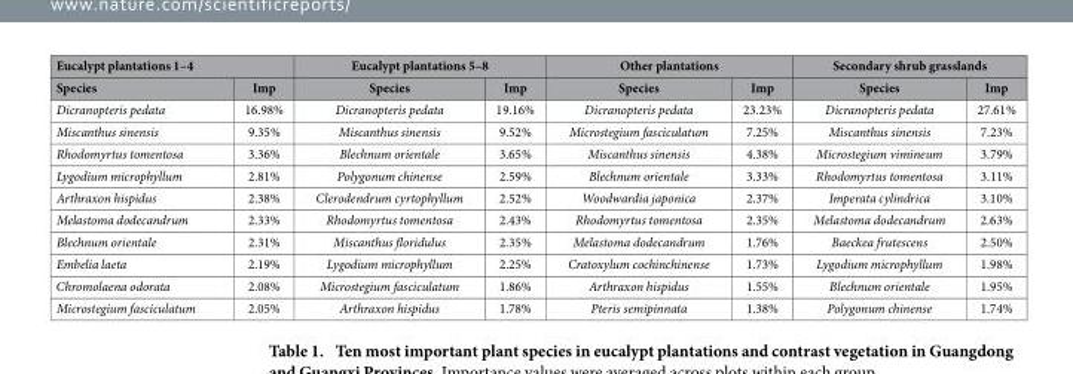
<table><thead><tr><td colspan="2">Eucalypt plantations 1–4</td><td colspan="2">Eucalypt plantations 5–8</td><td colspan="2">Other plantations</td><td colspan="2">Secondary shrub grasslands</td></tr><tr><td>Species</td><td>Imp</td><td>Species</td><td>Imp</td><td>Species</td><td>Imp</td><td>Species</td><td>Imp</td></tr></thead><tbody><tr><td>Dicranopteris pedata</td><td>16.98%</td><td>Dicranopteris pedata</td><td>19.16%</td><td>Dicranopteris pedata</td><td>23.23%</td><td>Dicranopteris pedata</td><td>27.61%</td></tr><tr><td>Miscanthus sinensis</td><td>9.35%</td><td>Miscanthus sinensis</td><td>9.52%</td><td>Microstegium fasciculatum</td><td>7.25%</td><td>Miscanthus sinensis</td><td>7.23%</td></tr><tr><td>Rhodomyrtus tomentosa</td><td>3.36%</td><td>Blechnum orientale</td><td>3.65%</td><td>Miscanthus sinensis</td><td>4.38%</td><td>Microstegium vimineum</td><td>3.79%</td></tr><tr><td>Lygodium microphyllum</td><td>2.81%</td><td>Polygonum chinense</td><td>2.59%</td><td>Blechnum orientale</td><td>3.33%</td><td>Rhodomyrtus tomentosa</td><td>3.11%</td></tr><tr><td>Arthraxon hispidus</td><td>2.38%</td><td>Clerodendrum cyrtophyllum</td><td>2.52%</td><td>Woodwardia japonica</td><td>2.37%</td><td>Imperata cylindrica</td><td>3.10%</td></tr><tr><td>Melastoma dodecandrum</td><td>2.33%</td><td>Rhodomyrtus tomentosa</td><td>2.43%</td><td>Rhodomyrtus tomentosa</td><td>2.35%</td><td>Melastoma dodecandrum</td><td>2.63%</td></tr><tr><td>Blechnum orientale</td><td>2.31%</td><td>Miscanthus floridulus</td><td>2.35%</td><td>Melastoma dodecandrum</td><td>1.76%</td><td>Baeckea frutescens</td><td>2.50%</td></tr><tr><td>Embelia laeta</td><td>2.19%</td><td>Lygodium microphyllum</td><td>2.25%</td><td>Cratoxylum cochinchinense</td><td>1.73%</td><td>Lygodium microphyllum</td><td>1.98%</td></tr><tr><td>Chromolaena odorata</td><td>2.08%</td><td>Microstegium fasciculatum</td><td>1.86%</td><td>Arthraxon hispidus</td><td>1.55%</td><td>Blechnum orientale</td><td>1.95%</td></tr><tr><td>Microstegium fasciculatum</td><td>2.05%</td><td>Arthraxon hispidus</td><td>1.78%</td><td>Pteris semipinnata</td><td>1.38%</td><td>Polygonum chinense</td><td>1.74%</td></tr></tbody></table>